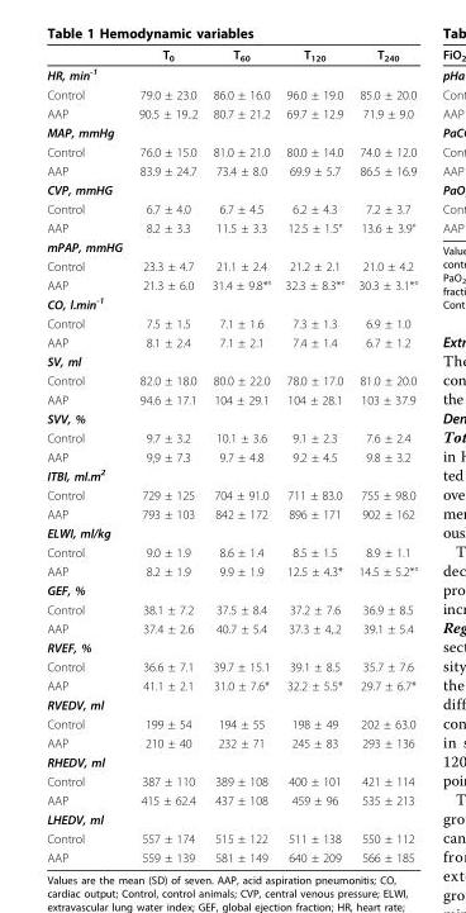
<table><thead><tr><td></td><td>T<sub>0</sub></td><td>T<sub>60</sub></td><td>T<sub>120</sub></td><td>T<sub>240</sub></td></tr></thead><tbody><tr><td colspan="5">HR, min<sup>-1</sup></td></tr><tr><td>Control</td><td>79.0 ± 23.0</td><td>86.0 ± 16.0</td><td>96.0 ± 19.0</td><td>85.0 ± 20.0</td></tr><tr><td>AAP</td><td>90.5 ± 19..2</td><td>80.7 ± 21.2</td><td>69.7 ± 12.9</td><td>71.9 ± 9.0</td></tr><tr><td colspan="5">MAP, mmHg</td></tr><tr><td>Control</td><td>76.0 ± 15.0</td><td>81.0 ± 21.0</td><td>80.0 ± 14.0</td><td>74.0 ± 12.0</td></tr><tr><td>AAP</td><td>83.9 ± 24.7</td><td>73.4 ± 8.0</td><td>69.9 ± 5.7</td><td>86.5 ± 16.9</td></tr><tr><td colspan="5">CVP, mmHG</td></tr><tr><td>Control</td><td>6.7 ± 4.0</td><td>6.7 ± 4.5</td><td>6.2 ± 4.3</td><td>7.2 ± 3.7</td></tr><tr><td>AAP</td><td>8.2 ± 3.3</td><td>11.5 ± 3.3</td><td>12.5 ± 1.5°</td><td>13.6 ± 3.9°</td></tr><tr><td colspan="5">mPAP, mmHG</td></tr><tr><td>Control</td><td>23.3 ± 4.7</td><td>21.1 ± 2.4</td><td>21.2 ± 2.1</td><td>21.0 ± 4.2</td></tr><tr><td>AAP</td><td>21.3 ± 6.0</td><td>31.4 ± 9.8*°</td><td>32.3 ± 8.3*°</td><td>30.3 ± 3.1*°</td></tr><tr><td colspan="5">CO, l.min<sup>-1</sup></td></tr><tr><td>Control</td><td>7.5 ± 1.5</td><td>7.1 ± 1.6</td><td>7.3 ± 1.3</td><td>6.9 ± 1.0</td></tr><tr><td>AAP</td><td>8.1 ± 2.4</td><td>7.1 ± 2.1</td><td>7.4 ± 1.4</td><td>6.7 ± 1.2</td></tr><tr><td colspan="5">SV, ml</td></tr><tr><td>Control</td><td>82.0 ± 18.0</td><td>80.0 ± 22.0</td><td>78.0 ± 17.0</td><td>81.0 ± 20.0</td></tr><tr><td>AAP</td><td>94.6 ± 17.1</td><td>104 ± 29.1</td><td>104 ± 28.1</td><td>103 ± 37.9</td></tr><tr><td colspan="5">SVV, %</td></tr><tr><td>Control</td><td>9.7 ± 3.2</td><td>10.1 ± 3.6</td><td>9.1 ± 2.3</td><td>7.6 ± 2.4</td></tr><tr><td>AAP</td><td>9,9 ± 7.3</td><td>9.7 ± 4.8</td><td>9.2 ± 4.5</td><td>9.8 ± 3.2</td></tr><tr><td colspan="5">ITBI, ml.m<sup>2</sup></td></tr><tr><td>Control</td><td>729 ± 125</td><td>704 ± 91.0</td><td>711 ± 83.0</td><td>755 ± 98.0</td></tr><tr><td>AAP</td><td>793 ± 103</td><td>842 ± 172</td><td>896 ± 171</td><td>902 ± 162</td></tr><tr><td colspan="5">ELWI, ml/kg</td></tr><tr><td>Control</td><td>9.0 ± 1.9</td><td>8.6 ± 1.4</td><td>8.5 ± 1.5</td><td>8.9 ± 1.1</td></tr><tr><td>AAP</td><td>8.2 ± 1.9</td><td>9.9 ± 1.9</td><td>12.5 ± 4.3*</td><td>14.5 ± 5.2*°</td></tr><tr><td colspan="5">GEF, %</td></tr><tr><td>Control</td><td>38.1 ± 7.2</td><td>37.5 ± 8.4</td><td>37.2 ± 7.6</td><td>36.9 ± 8.5</td></tr><tr><td>AAP</td><td>37.4 ± 2.6</td><td>40.7 ± 5.4</td><td>37.3 ± 4,.2</td><td>39.1 ± 5.4</td></tr><tr><td colspan="5">RVEF, %</td></tr><tr><td>Control</td><td>36.6 ± 7.1</td><td>39.7 ± 15.1</td><td>39.1 ± 8.5</td><td>35.7 ± 7.6</td></tr><tr><td>AAP</td><td>41.1 ± 2.1</td><td>31.0 ± 7.6*</td><td>32.2 ± 5.5*</td><td>29.7 ± 6.7*</td></tr><tr><td colspan="5">RVEDV, ml</td></tr><tr><td>Control</td><td>199 ± 54</td><td>194 ± 55</td><td>198 ± 49</td><td>202 ± 63.0</td></tr><tr><td>AAP</td><td>210 ± 40</td><td>232 ± 71</td><td>245 ± 83</td><td>293 ± 136</td></tr><tr><td colspan="5">RHEDV, ml</td></tr><tr><td>Control</td><td>387 ± 110</td><td>389 ± 108</td><td>400 ± 101</td><td>421 ± 114</td></tr><tr><td>AAP</td><td>415 ± 62.4</td><td>437 ± 108</td><td>459 ± 96</td><td>535 ± 213</td></tr><tr><td colspan="5">LHEDV, ml</td></tr><tr><td>Control</td><td>557 ± 174</td><td>515 ± 122</td><td>511 ± 138</td><td>550 ± 112</td></tr><tr><td>AAP</td><td>559 ± 139</td><td>581 ± 149</td><td>640 ± 209</td><td>566 ± 185</td></tr></tbody></table>